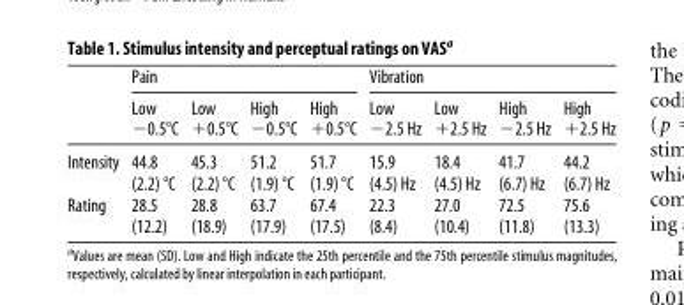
<table><thead><tr><td rowspan="2"></td><td colspan="4">Pain</td><td colspan="4">Vibration</td></tr><tr><td>Low −0.5°C</td><td>Low +0.5°C</td><td>High −0.5°C</td><td>High +0.5°C</td><td>Low −2.5 Hz</td><td>Low +2.5 Hz</td><td>High −2.5 Hz</td><td>High +2.5 Hz</td></tr></thead><tbody><tr><td rowspan="2">Intensity</td><td>44.8</td><td>45.3</td><td>51.2</td><td>51.7</td><td>15.9</td><td>18.4</td><td>41.7</td><td>44.2</td></tr><tr><td>(2.2) °C</td><td>(2.2) °C</td><td>(1.9) °C</td><td>(1.9) °C</td><td>(4.5) Hz</td><td>(4.5) Hz</td><td>(6.7) Hz</td><td>(6.7) Hz</td></tr><tr><td rowspan="2">Rating</td><td>28.5</td><td>28.8</td><td>63.7</td><td>67.4</td><td>22.3</td><td>27.0</td><td>72.5</td><td>75.6</td></tr><tr><td>(12.2)</td><td>(18.9)</td><td>(17.9)</td><td>(17.5)</td><td>(8.4)</td><td>(10.4)</td><td>(11.8)</td><td>(13.3)</td></tr></tbody></table>